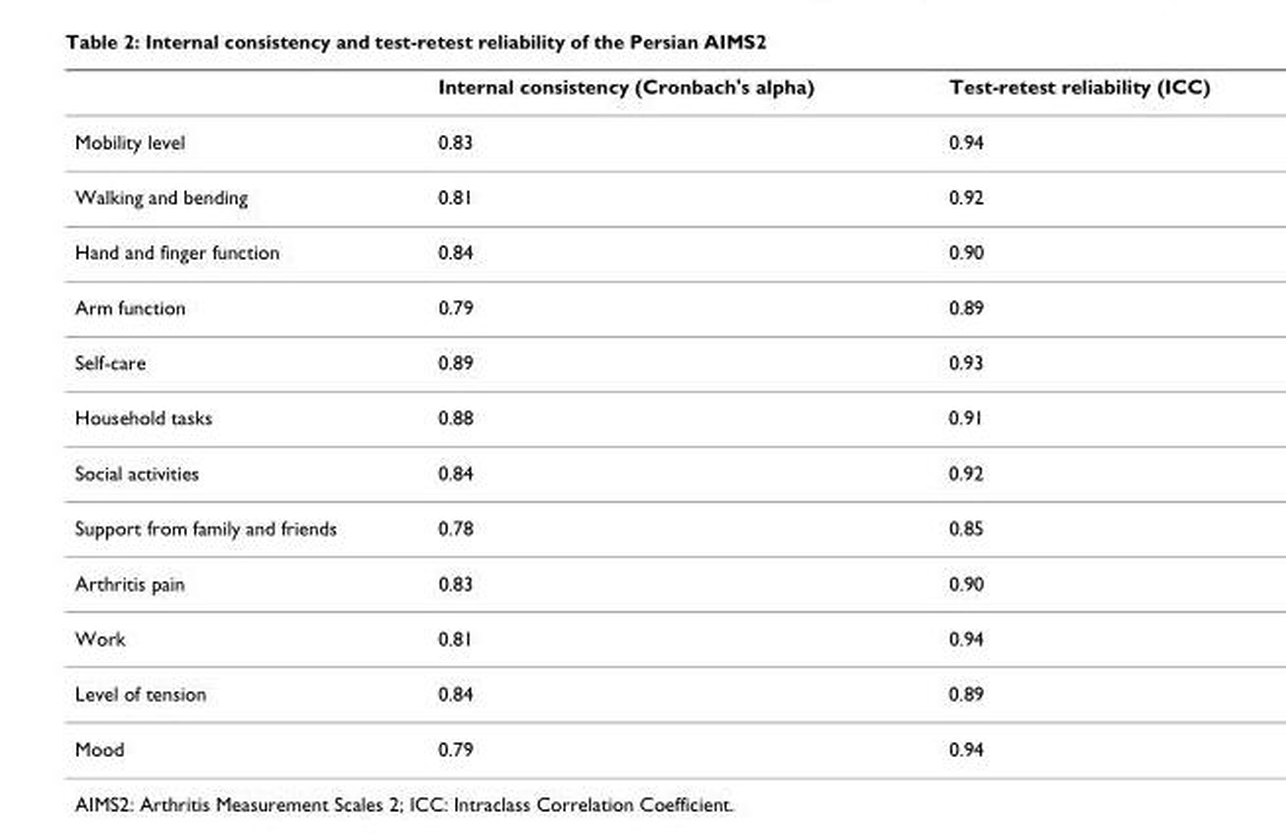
<table><thead><tr><td></td><td>Internal consistency (Cronbach&#x27;s alpha)</td><td>Test-retest reliability (ICC)</td></tr></thead><tbody><tr><td>Mobility level</td><td>0.83</td><td>0.94</td></tr><tr><td>Walking and bending</td><td>0.81</td><td>0.92</td></tr><tr><td>Hand and finger function</td><td>0.84</td><td>0.90</td></tr><tr><td>Arm function</td><td>0.79</td><td>0.89</td></tr><tr><td>Self-care</td><td>0.89</td><td>0.93</td></tr><tr><td>Household tasks</td><td>0.88</td><td>0.91</td></tr><tr><td>Social activities</td><td>0.84</td><td>0.92</td></tr><tr><td>Support from family and friends</td><td>0.78</td><td>0.85</td></tr><tr><td>Arthritis pain</td><td>0.83</td><td>0.90</td></tr><tr><td>Work</td><td>0.81</td><td>0.94</td></tr><tr><td>Level of tension</td><td>0.84</td><td>0.89</td></tr><tr><td>Mood</td><td>0.79</td><td>0.94</td></tr></tbody></table>